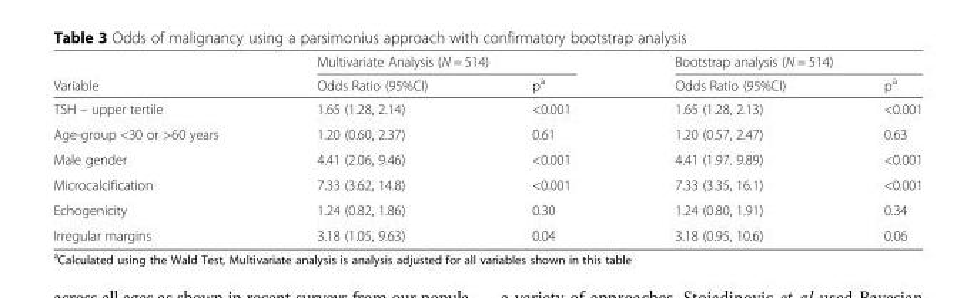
<table><thead><tr><td rowspan="2">Variable</td><td colspan="2">Multivariate Analysis (N = 514)</td><td colspan="2">Bootstrap analysis (N = 514)</td></tr><tr><td>Odds Ratio (95%CI)</td><td>p<sup>a</sup></td><td>Odds Ratio (95%CI)</td><td>p<sup>a</sup></td></tr></thead><tbody><tr><td>TSH – upper tertile</td><td>1.65 (1.28, 2.14)</td><td>&lt;0.001</td><td>1.65 (1.28, 2.13)</td><td>&lt;0.001</td></tr><tr><td>Age-group &lt;30 or &gt;60 years</td><td>1.20 (0.60, 2.37)</td><td>0.61</td><td>1.20 (0.57, 2.47)</td><td>0.63</td></tr><tr><td>Male gender</td><td>4.41 (2.06, 9.46)</td><td>&lt;0.001</td><td>4.41 (1.97. 9.89)</td><td>&lt;0.001</td></tr><tr><td>Microcalcification</td><td>7.33 (3.62, 14.8)</td><td>&lt;0.001</td><td>7.33 (3.35, 16.1)</td><td>&lt;0.001</td></tr><tr><td>Echogenicity</td><td>1.24 (0.82, 1.86)</td><td>0.30</td><td>1.24 (0.80, 1.91)</td><td>0.34</td></tr><tr><td>Irregular margins</td><td>3.18 (1.05, 9.63)</td><td>0.04</td><td>3.18 (0.95, 10.6)</td><td>0.06</td></tr></tbody></table>